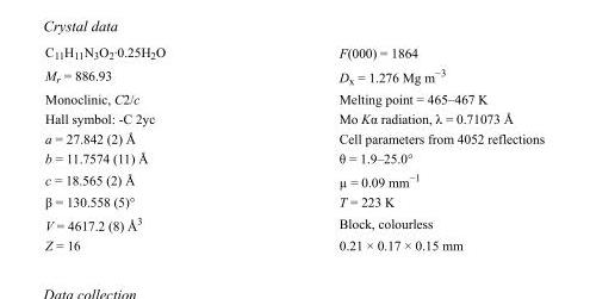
<table><tbody><tr><td>C<sub>11</sub>H<sub>11</sub>N<sub>3</sub>O<sub>2</sub>·0.25H<sub>2</sub>O</td><td>F(000) = 1864</td></tr><tr><td>M<sub>r</sub> = 886.93</td><td>D<sub>x</sub> = 1.276 Mg m<sup>−3</sup></td></tr><tr><td>Monoclinic, C2/c</td><td>Melting point = 465–467 K</td></tr><tr><td>Hall symbol: -C 2yc</td><td>Mo Kα radiation, λ = 0.71073 Å</td></tr><tr><td>a = 27.842 (2) Å</td><td>Cell parameters from 4052 reflections</td></tr><tr><td>b = 11.7574 (11) Å</td><td>θ = 1.9–25.0°</td></tr><tr><td>c = 18.565 (2) Å</td><td>µ = 0.09 mm<sup>−1</sup></td></tr><tr><td>β = 130.558 (5)°</td><td>T = 223 K</td></tr><tr><td>V = 4617.2 (8) Å<sup>3</sup></td><td>Block, colourless</td></tr><tr><td>Z = 16</td><td>0.21 × 0.17 × 0.15 mm</td></tr></tbody></table>